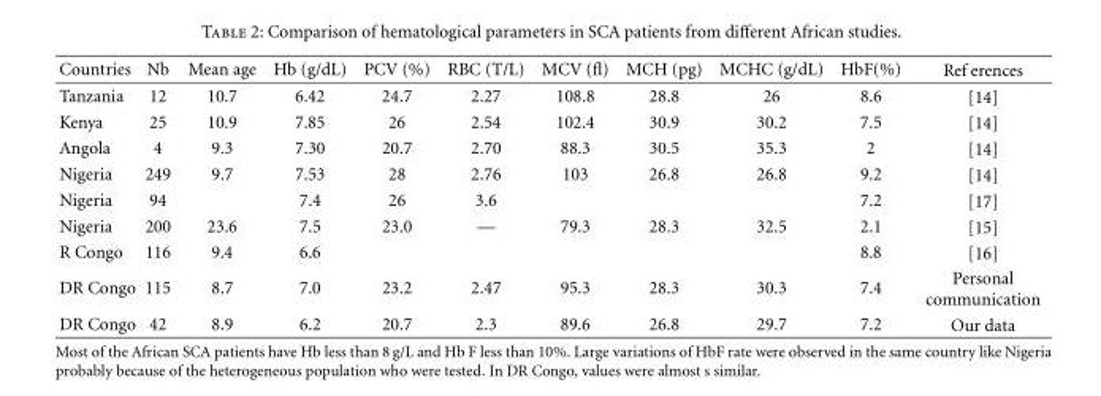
<table><thead><tr><td>Countries</td><td>Nb</td><td>Mean age</td><td>Hb (g/dL)</td><td>PCV (%)</td><td>RBC (T/L)</td><td>MCV (fl)</td><td>MCH (pg)</td><td>MCHC (g/dL)</td><td>HbF(%)</td><td>Ref erences</td></tr></thead><tbody><tr><td>Tanzania</td><td>12</td><td>10.7</td><td>6.42</td><td>24.7</td><td>2.27</td><td>108.8</td><td>28.8</td><td>26</td><td>8.6</td><td>[14]</td></tr><tr><td>Kenya</td><td>25</td><td>10.9</td><td>7.85</td><td>26</td><td>2.54</td><td>102.4</td><td>30.9</td><td>30.2</td><td>7.5</td><td>[14]</td></tr><tr><td>Angola</td><td>4</td><td>9.3</td><td>7.30</td><td>20.7</td><td>2.70</td><td>88.3</td><td>30.5</td><td>35.3</td><td>2</td><td>[14]</td></tr><tr><td>Nigeria</td><td>249</td><td>9.7</td><td>7.53</td><td>28</td><td>2.76</td><td>103</td><td>26.8</td><td>26.8</td><td>9.2</td><td>[14]</td></tr><tr><td>Nigeria</td><td>94</td><td></td><td>7.4</td><td>26</td><td>3.6</td><td></td><td></td><td></td><td>7.2</td><td>[17]</td></tr><tr><td>Nigeria</td><td>200</td><td>23.6</td><td>7.5</td><td>23.0</td><td>—</td><td>79.3</td><td>28.3</td><td>32.5</td><td>2.1</td><td>[15]</td></tr><tr><td>R Congo</td><td>116</td><td>9.4</td><td>6.6</td><td></td><td></td><td></td><td></td><td></td><td>8.8</td><td>[16]</td></tr><tr><td>DR Congo</td><td>115</td><td>8.7</td><td>7.0</td><td>23.2</td><td>2.47</td><td>95.3</td><td>28.3</td><td>30.3</td><td>7.4</td><td>Personal communication</td></tr><tr><td>DR Congo</td><td>42</td><td>8.9</td><td>6.2</td><td>20.7</td><td>2.3</td><td>89.6</td><td>26.8</td><td>29.7</td><td>7.2</td><td>Our data</td></tr></tbody></table>